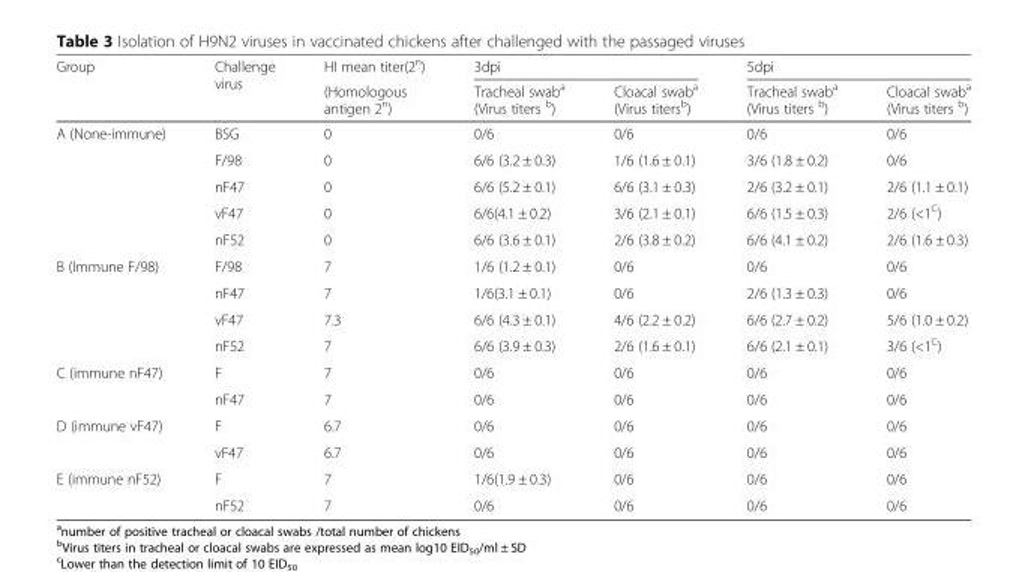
<table><thead><tr><td rowspan="2">Group</td><td rowspan="2">Challenge virus</td><td rowspan="2">HI mean titer(2<sup>n</sup>) (Homologous antigen 2<sup>n</sup>)</td><td colspan="2">3dpi</td><td colspan="2">5dpi</td></tr><tr><td>Tracheal swab<sup>a</sup> (Virus titers <sup>b</sup>)</td><td>Cloacal swab<sup>a</sup> (Virus titers<sup>b</sup>)</td><td>Tracheal swab<sup>a</sup> (Virus titers <sup>b</sup>)</td><td>Cloacal swab<sup>a</sup> (Virus titers <sup>b</sup>)</td></tr></thead><tbody><tr><td rowspan="5">A (None-immune)</td><td>BSG</td><td>0</td><td>0/6</td><td>0/6</td><td>0/6</td><td>0/6</td></tr><tr><td>F/98</td><td>0</td><td>6/6 (3.2 ± 0.3)</td><td>1/6 (1.6 ± 0.1)</td><td>3/6 (1.8 ± 0.2)</td><td>0/6</td></tr><tr><td>nF47</td><td>0</td><td>6/6 (5.2 ± 0.1)</td><td>6/6 (3.1 ± 0.3)</td><td>2/6 (3.2 ± 0.1)</td><td>2/6 (1.1 ± 0.1)</td></tr><tr><td>vF47</td><td>0</td><td>6/6(4.1 ± 0.2)</td><td>3/6 (2.1 ± 0.1)</td><td>6/6 (1.5 ± 0.3)</td><td>2/6 (&lt;1<sup>C</sup>)</td></tr><tr><td>nF52</td><td>0</td><td>6/6 (3.6 ± 0.1)</td><td>2/6 (3.8 ± 0.2)</td><td>6/6 (4.1 ± 0.2)</td><td>2/6 (1.6 ± 0.3)</td></tr><tr><td rowspan="4">B (Immune F/98)</td><td>F/98</td><td>7</td><td>1/6 (1.2 ± 0.1)</td><td>0/6</td><td>0/6</td><td>0/6</td></tr><tr><td>nF47</td><td>7</td><td>1/6(3.1 ± 0.1)</td><td>0/6</td><td>2/6 (1.3 ± 0.3)</td><td>0/6</td></tr><tr><td>vF47</td><td>7.3</td><td>6/6 (4.3 ± 0.1)</td><td>4/6 (2.2 ± 0.2)</td><td>6/6 (2.7 ± 0.2)</td><td>5/6 (1.0 ± 0.2)</td></tr><tr><td>nF52</td><td>7</td><td>6/6 (3.9 ± 0.3)</td><td>2/6 (1.6 ± 0.1)</td><td>6/6 (2.1 ± 0.1)</td><td>3/6 (&lt;1<sup>C</sup>)</td></tr><tr><td rowspan="2">C (immune nF47)</td><td>F</td><td>7</td><td>0/6</td><td>0/6</td><td>0/6</td><td>0/6</td></tr><tr><td>nF47</td><td>7</td><td>0/6</td><td>0/6</td><td>0/6</td><td>0/6</td></tr><tr><td rowspan="2">D (immune vF47)</td><td>F</td><td>6.7</td><td>0/6</td><td>0/6</td><td>0/6</td><td>0/6</td></tr><tr><td>vF47</td><td>6.7</td><td>0/6</td><td>0/6</td><td>0/6</td><td>0/6</td></tr><tr><td rowspan="2">E (immune nF52)</td><td>F</td><td>7</td><td>1/6(1.9 ± 0.3)</td><td>0/6</td><td>0/6</td><td>0/6</td></tr><tr><td>nF52</td><td>7</td><td>0/6</td><td>0/6</td><td>0/6</td><td>0/6</td></tr></tbody></table>